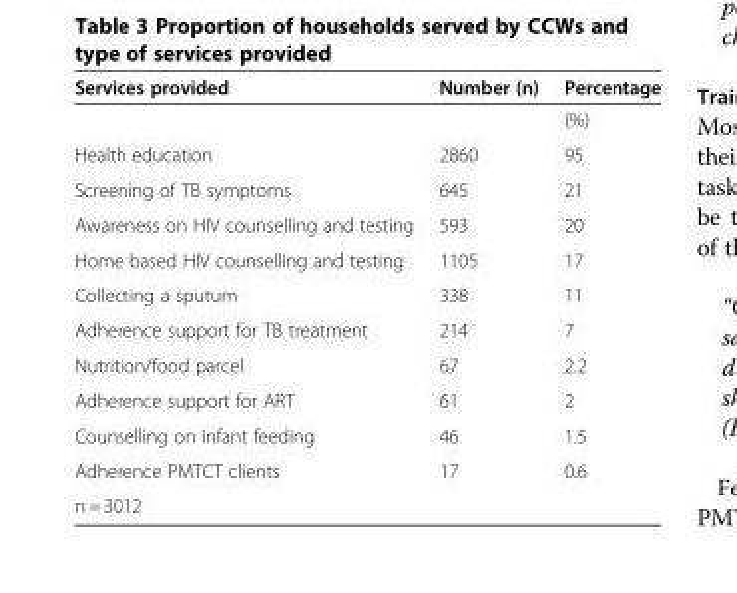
<table><thead><tr><td>Services provided</td><td>Number (n)</td><td>Percentage</td></tr></thead><tbody><tr><td></td><td></td><td>(%)</td></tr><tr><td>Health education</td><td>2860</td><td>95</td></tr><tr><td>Screening of TB symptoms</td><td>645</td><td>21</td></tr><tr><td>Awareness on HIV counselling and testing</td><td>593</td><td>20</td></tr><tr><td>Home based HIV counselling and testing</td><td>1105</td><td>17</td></tr><tr><td>Collecting a sputum</td><td>338</td><td>11</td></tr><tr><td>Adherence support for TB treatment</td><td>214</td><td>7</td></tr><tr><td>Nutrition/food parcel</td><td>67</td><td>2.2</td></tr><tr><td>Adherence support for ART</td><td>61</td><td>2</td></tr><tr><td>Counselling on infant feeding</td><td>46</td><td>1.5</td></tr><tr><td>Adherence PMTCT clients</td><td>17</td><td>0.6</td></tr><tr><td>n = 3012</td><td></td><td></td></tr></tbody></table>